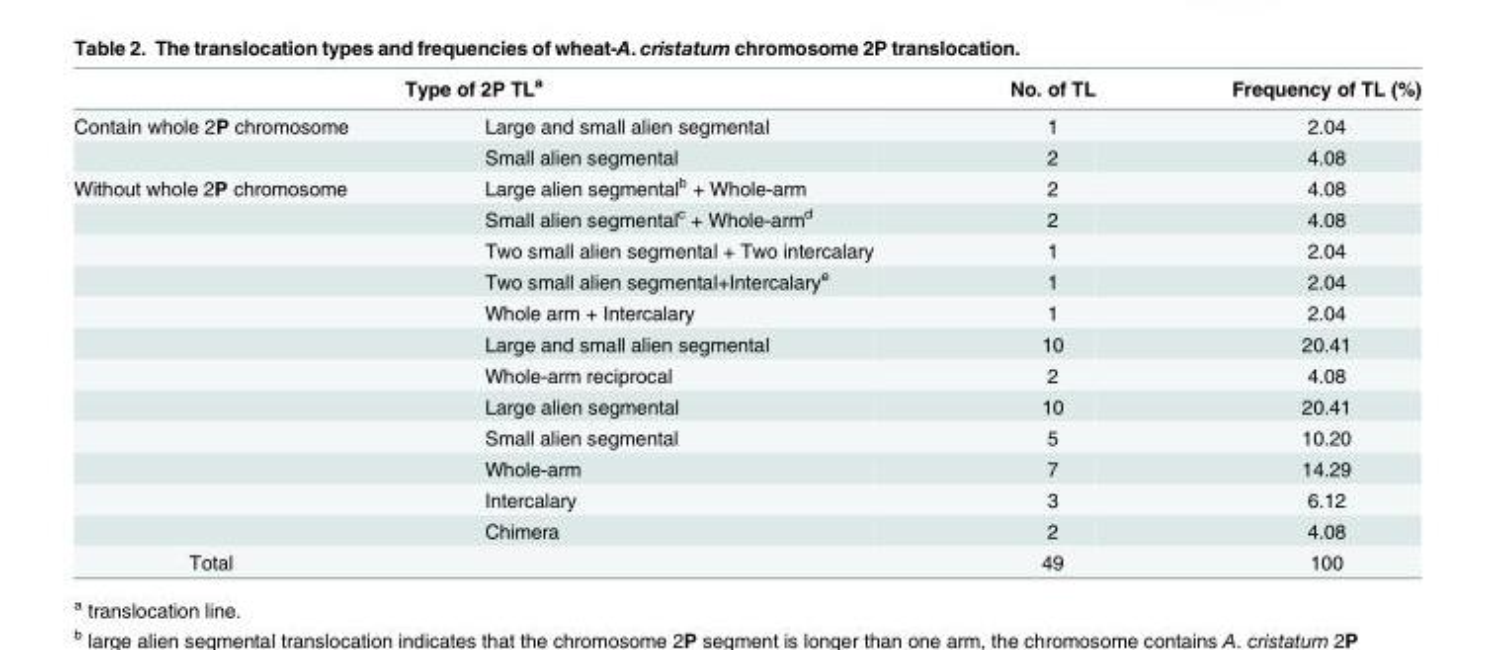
<table><thead><tr><td colspan="2">Type of 2P TL<sup>a</sup></td><td rowspan="2">No. of TL 1</td><td rowspan="2">Frequency of TL (%) 2.04</td></tr><tr><td>Contain whole 2P chromosome</td><td>Large and small alien segmental</td></tr></thead><tbody><tr><td></td><td>Small alien segmental</td><td>2</td><td>4.08</td></tr><tr><td rowspan="12">Without whole 2P chromosome</td><td>Large alien segmental<sup>b</sup> + Whole-arm</td><td>2</td><td>4.08</td></tr><tr><td>Small alien segmental<sup>c</sup> + Whole-arm<sup>d</sup></td><td>2</td><td>4.08</td></tr><tr><td>Two small alien segmental + Two intercalary</td><td>1</td><td>2.04</td></tr><tr><td>Two small alien segmental+Intercalary<sup>e</sup></td><td>1</td><td>2.04</td></tr><tr><td>Whole arm + Intercalary</td><td>1</td><td>2.04</td></tr><tr><td>Large and small alien segmental</td><td>10</td><td>20.41</td></tr><tr><td>Whole-arm reciprocal</td><td>2</td><td>4.08</td></tr><tr><td>Large alien segmental</td><td>10</td><td>20.41</td></tr><tr><td>Small alien segmental</td><td>5</td><td>10.20</td></tr><tr><td>Whole-arm</td><td>7</td><td>14.29</td></tr><tr><td>Intercalary</td><td>3</td><td>6.12</td></tr><tr><td>Chimera</td><td>2</td><td>4.08</td></tr><tr><td>Total</td><td></td><td>49</td><td>100</td></tr></tbody></table>